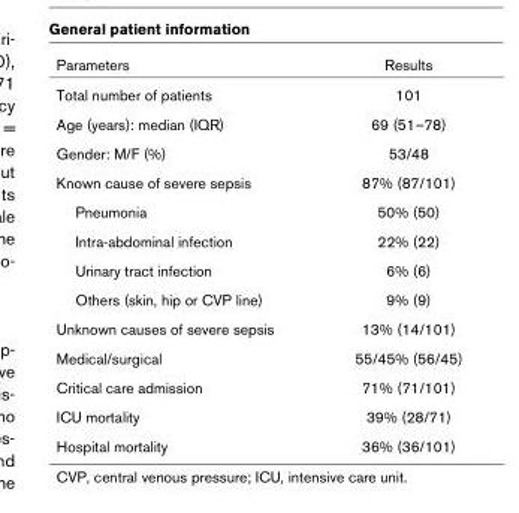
<table><thead><tr><td>Parameters</td><td>Results</td></tr></thead><tbody><tr><td>Total number of patients</td><td>101</td></tr><tr><td>Age (years): median (IQR)</td><td>69 (51–78)</td></tr><tr><td>Gender: M/F (%)</td><td>53/48</td></tr><tr><td>Known cause of severe sepsis</td><td>87% (87/101)</td></tr><tr><td>Pneumonia</td><td>50% (50)</td></tr><tr><td>Intra-abdominal infection</td><td>22% (22)</td></tr><tr><td>Urinary tract infection</td><td>6% (6)</td></tr><tr><td>Others (skin, hip or CVP line)</td><td>9% (9)</td></tr><tr><td>Unknown causes of severe sepsis</td><td>13% (14/101)</td></tr><tr><td>Medical/surgical</td><td>55/45% (56/45)</td></tr><tr><td>Critical care admission</td><td>71% (71/101)</td></tr><tr><td>ICU mortality</td><td>39% (28/71)</td></tr><tr><td>Hospital mortality</td><td>36% (36/101)</td></tr></tbody></table>